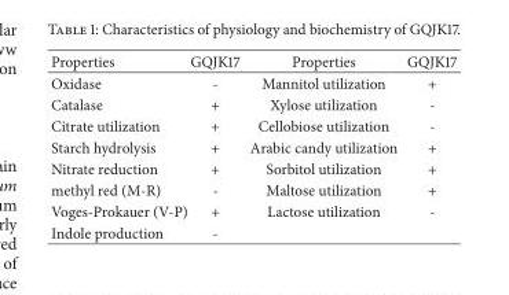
<table><thead><tr><td>Properties</td><td>GQJK17</td><td>Properties</td><td>GQJK17</td></tr></thead><tbody><tr><td>Oxidase</td><td>-</td><td>Mannitol utilization</td><td>+</td></tr><tr><td>Catalase</td><td>+</td><td>Xylose utilization</td><td>-</td></tr><tr><td>Citrate utilization</td><td>+</td><td>Cellobiose utilization</td><td>-</td></tr><tr><td>Starch hydrolysis</td><td>+</td><td>Arabic candy utilization</td><td>+</td></tr><tr><td>Nitrate reduction</td><td>+</td><td>Sorbitol utilization</td><td>+</td></tr><tr><td>methyl red (M-R)</td><td>-</td><td>Maltose utilization</td><td>+</td></tr><tr><td>Voges-Prokauer (V-P)</td><td>+</td><td>Lactose utilization</td><td>-</td></tr><tr><td>Indole production</td><td>-</td><td></td><td></td></tr></tbody></table>